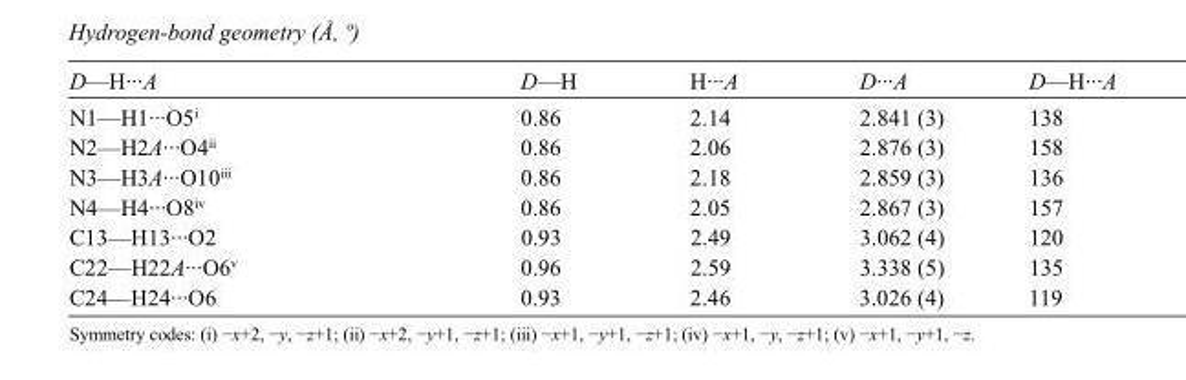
<table><tbody><tr><td>D—H···A</td><td>D—H</td><td>H···A</td><td>D···A</td><td>D—H···A</td></tr><tr><td>N1—H1···O5<sup>i</sup></td><td>0.86</td><td>2.14</td><td>2.841 (3)</td><td>138</td></tr><tr><td>N2—H2A···O4<sup>ii</sup></td><td>0.86</td><td>2.06</td><td>2.876 (3)</td><td>158</td></tr><tr><td>N3—H3A···O10<sup>iii</sup></td><td>0.86</td><td>2.18</td><td>2.859 (3)</td><td>136</td></tr><tr><td>N4—H4···O8<sup>iv</sup></td><td>0.86</td><td>2.05</td><td>2.867 (3)</td><td>157</td></tr><tr><td>C13—H13···O2</td><td>0.93</td><td>2.49</td><td>3.062 (4)</td><td>120</td></tr><tr><td>C22—H22A···O6<sup>v</sup></td><td>0.96</td><td>2.59</td><td>3.338 (5)</td><td>135</td></tr><tr><td>C24—H24···O6</td><td>0.93</td><td>2.46</td><td>3.026 (4)</td><td>119</td></tr></tbody></table>